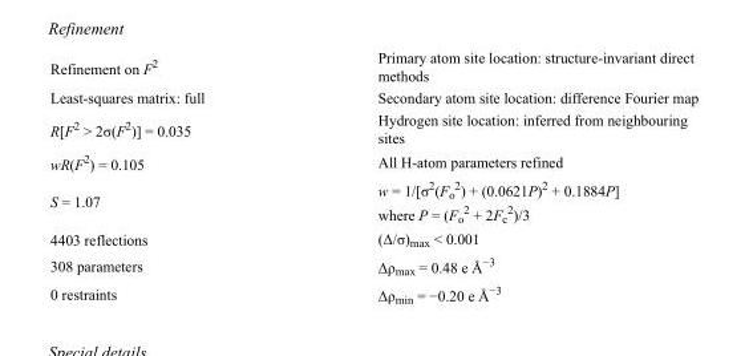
<table><tbody><tr><td>Refinement on F<sup>2</sup></td><td>Primary atom site location: structure-invariant direct methods</td></tr><tr><td>Least-squares matrix: full</td><td>Secondary atom site location: difference Fourier map</td></tr><tr><td>R[F<sup>2</sup> &gt; 2σ(F<sup>2</sup>)] = 0.035</td><td>Hydrogen site location: inferred from neighbouring sites</td></tr><tr><td>wR(F<sup>2</sup>) = 0.105</td><td>All H-atom parameters refined</td></tr><tr><td>S = 1.07</td><td>w = 1/[σ<sup>2</sup>(F<sub>o</sub> <sup>2</sup>) + (0.0621P)<sup>2</sup> + 0.1884P] where P = (F<sub>o</sub> <sup>2</sup> + 2F<sub>c</sub> <sup>2</sup>)/3</td></tr><tr><td>4403 reflections</td><td>(Δ/σ)<sub>max</sub> &lt; 0.001</td></tr><tr><td>308 parameters</td><td>Δρ<sub>max</sub> = 0.48 e Å<sup>−3</sup></td></tr><tr><td>0 restraints</td><td>Δρ<sub>min</sub> = −0.20 e Å<sup>−3</sup></td></tr></tbody></table>